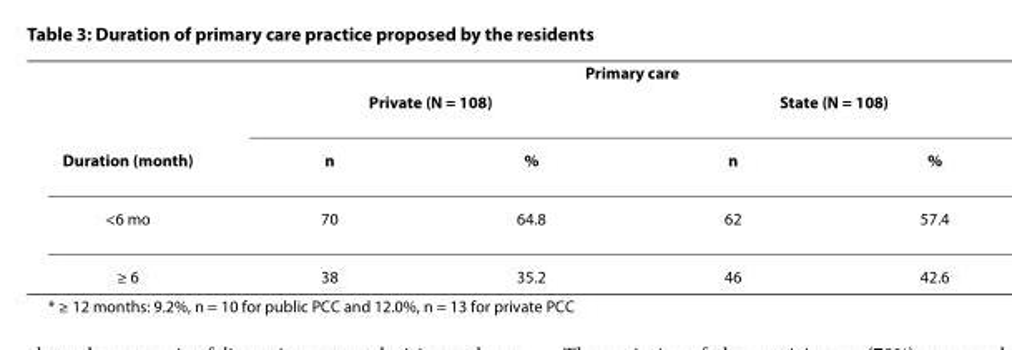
<table><thead><tr><td rowspan="3">Duration (month)</td><td colspan="4">Primary care</td></tr><tr><td colspan="2">Private (N = 108)</td><td colspan="2">State (N = 108)</td></tr><tr><td>n</td><td>%</td><td>n</td><td>%</td></tr></thead><tbody><tr><td>&lt;6 mo</td><td>70</td><td>64.8</td><td>62</td><td>57.4</td></tr><tr><td>≥ 6</td><td>38</td><td>35.2</td><td>46</td><td>42.6</td></tr></tbody></table>